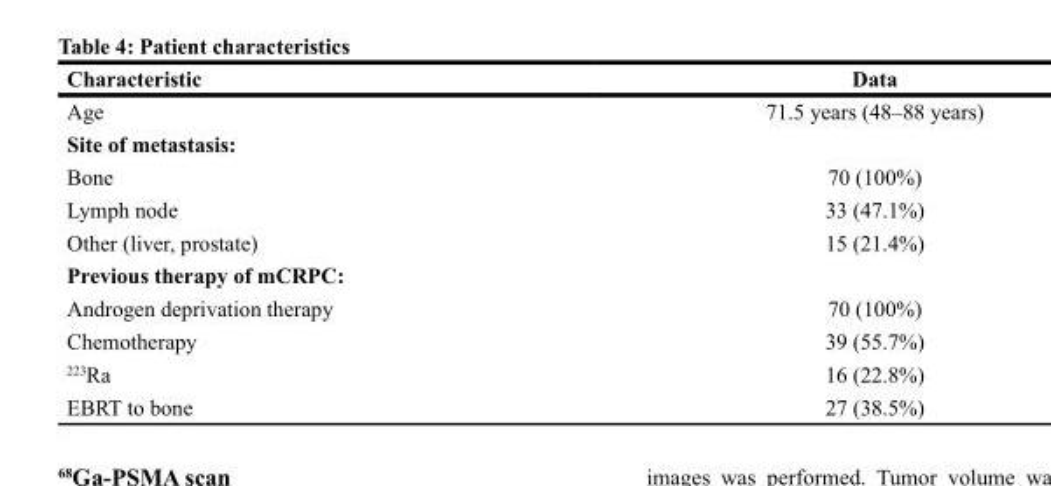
<table><thead><tr><td>Characteristic</td><td>Data</td></tr></thead><tbody><tr><td>Age</td><td>71.5 years (48–88 years)</td></tr><tr><td colspan="2">Site of metastasis:</td></tr><tr><td>Bone</td><td>70 (100%)</td></tr><tr><td>Lymph node</td><td>33 (47.1%)</td></tr><tr><td>Other (liver, prostate)</td><td>15 (21.4%)</td></tr><tr><td colspan="2">Previous therapy of mCRPC:</td></tr><tr><td>Androgen deprivation therapy</td><td>70 (100%)</td></tr><tr><td>Chemotherapy</td><td>39 (55.7%)</td></tr><tr><td><sup>223</sup>Ra</td><td>16 (22.8%)</td></tr><tr><td>EBRT to bone</td><td>27 (38.5%)</td></tr></tbody></table>